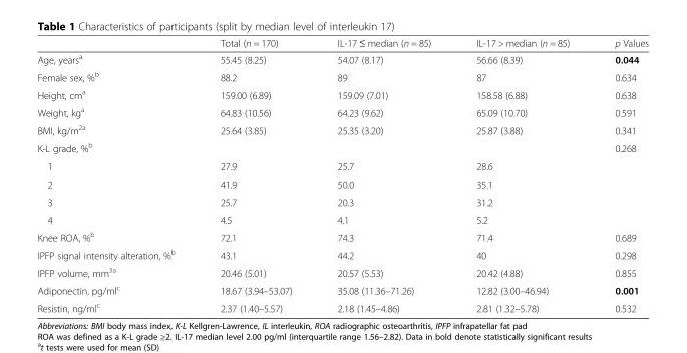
<table><thead><tr><td></td><td>Total (n = 170)</td><td>IL-17 ≤ median (n = 85)</td><td>IL-17 &gt; median (n = 85)</td><td>p Values</td></tr></thead><tbody><tr><td>Age, years<sup>a</sup></td><td>55.45 (8.25)</td><td>54.07 (8.17)</td><td>56.66 (8.39)</td><td>0.044</td></tr><tr><td>Female sex, %<sup>b</sup></td><td>88.2</td><td>89</td><td>87</td><td>0.634</td></tr><tr><td>Height, cm<sup>a</sup></td><td>159.00 (6.89)</td><td>159.09 (7.01)</td><td>158.58 (6.88)</td><td>0.638</td></tr><tr><td>Weight, kg<sup>a</sup></td><td>64.83 (10.56)</td><td>64.23 (9.62)</td><td>65.09 (10.70)</td><td>0.591</td></tr><tr><td>BMI, kg/m<sup>2a</sup></td><td>25.64 (3.85)</td><td>25.35 (3.20)</td><td>25.87 (3.88)</td><td>0.341</td></tr><tr><td>K-L grade, %<sup>b</sup></td><td></td><td></td><td></td><td>0.268</td></tr><tr><td>1</td><td>27.9</td><td>25.7</td><td>28.6</td><td></td></tr><tr><td>2</td><td>41.9</td><td>50.0</td><td>35.1</td><td></td></tr><tr><td>3</td><td>25.7</td><td>20.3</td><td>31.2</td><td></td></tr><tr><td>4</td><td>4.5</td><td>4.1</td><td>5.2</td><td></td></tr><tr><td>Knee ROA, %<sup>b</sup></td><td>72.1</td><td>74.3</td><td>71.4</td><td>0.689</td></tr><tr><td>IPFP signal intensity alteration, %<sup>b</sup></td><td>43.1</td><td>44.2</td><td>40</td><td>0.298</td></tr><tr><td>IPFP volume, mm<sup>3a</sup></td><td>20.46 (5.01)</td><td>20.57 (5.53)</td><td>20.42 (4.88)</td><td>0.855</td></tr><tr><td>Adiponectin, pg/ml<sup>c</sup></td><td>18.67 (3.94–53.07)</td><td>35.08 (11.36–71.26)</td><td>12.82 (3.00–46.94)</td><td>0.001</td></tr><tr><td>Resistin, ng/ml<sup>c</sup></td><td>2.37 (1.40–5.57)</td><td>2.18 (1.45–4.86)</td><td>2.81 (1.32–5.78)</td><td>0.532</td></tr></tbody></table>